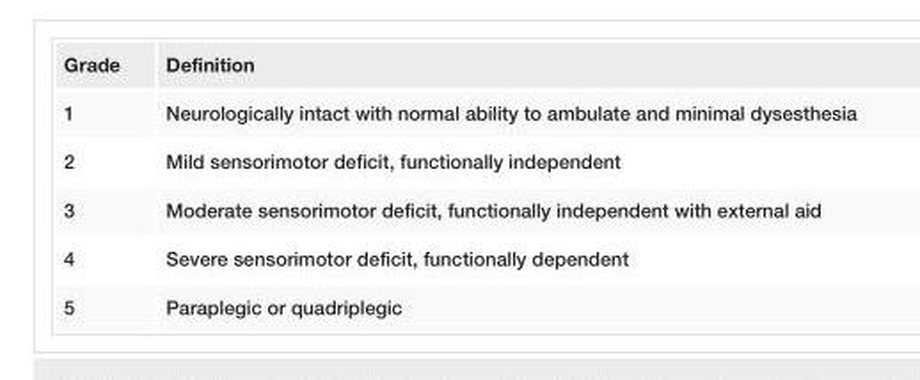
<table><tbody><tr><td>Grade</td><td>Definition</td></tr><tr><td>1</td><td>Neurologically intact with normal ability to ambulate and minimal dysesthesia</td></tr><tr><td>2</td><td>Mild sensorimotor deficit, functionally independent</td></tr><tr><td>3</td><td>Moderate sensorimotor deficit, functionally independent with external aid</td></tr><tr><td>4</td><td>Severe sensorimotor deficit, functionally dependent</td></tr><tr><td>5</td><td>Paraplegic or quadriplegic</td></tr></tbody></table>